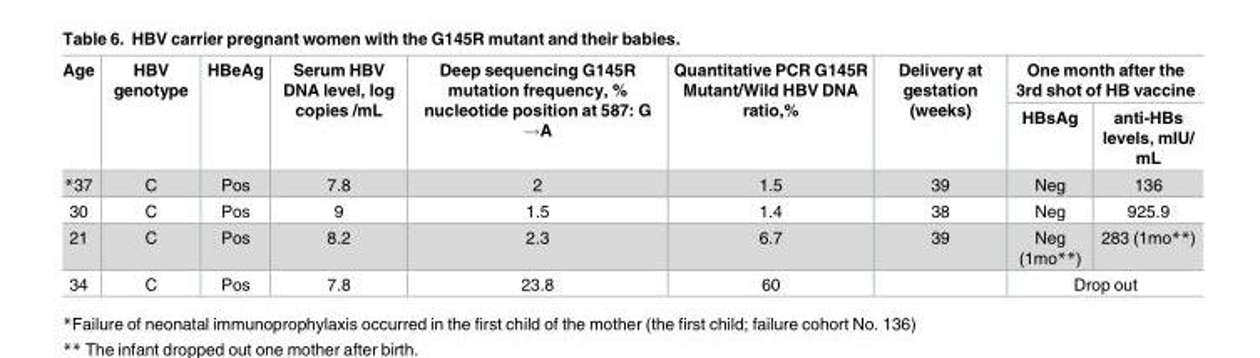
<table><thead><tr><td rowspan="2">Age</td><td rowspan="2">HBV genotype</td><td rowspan="2">HBeAg</td><td rowspan="2">Serum HBV DNA level, log copies /mL</td><td rowspan="2">Deep sequencing G145R mutation frequency, % nucleotide position at 587: G →A</td><td rowspan="2">Quantitative PCR G145R Mutant/Wild HBV DNA ratio,%</td><td rowspan="2">Delivery at gestation (weeks)</td><td colspan="2">One month after the 3rd shot of HB vaccine</td></tr><tr><td>HBsAg</td><td>anti-HBs levels, mIU/ mL</td></tr></thead><tbody><tr><td>*37</td><td>C</td><td>Pos</td><td>7.8</td><td>2</td><td>1.5</td><td>39</td><td>Neg</td><td>136</td></tr><tr><td>30</td><td>C</td><td>Pos</td><td>9</td><td>1.5</td><td>1.4</td><td>38</td><td>Neg</td><td>925.9</td></tr><tr><td>21</td><td>C</td><td>Pos</td><td>8.2</td><td>2.3</td><td>6.7</td><td>39</td><td>Neg (1mo**)</td><td>283 (1mo**)</td></tr><tr><td>34</td><td>C</td><td>Pos</td><td>7.8</td><td>23.8</td><td>60</td><td></td><td colspan="2">Drop out</td></tr></tbody></table>